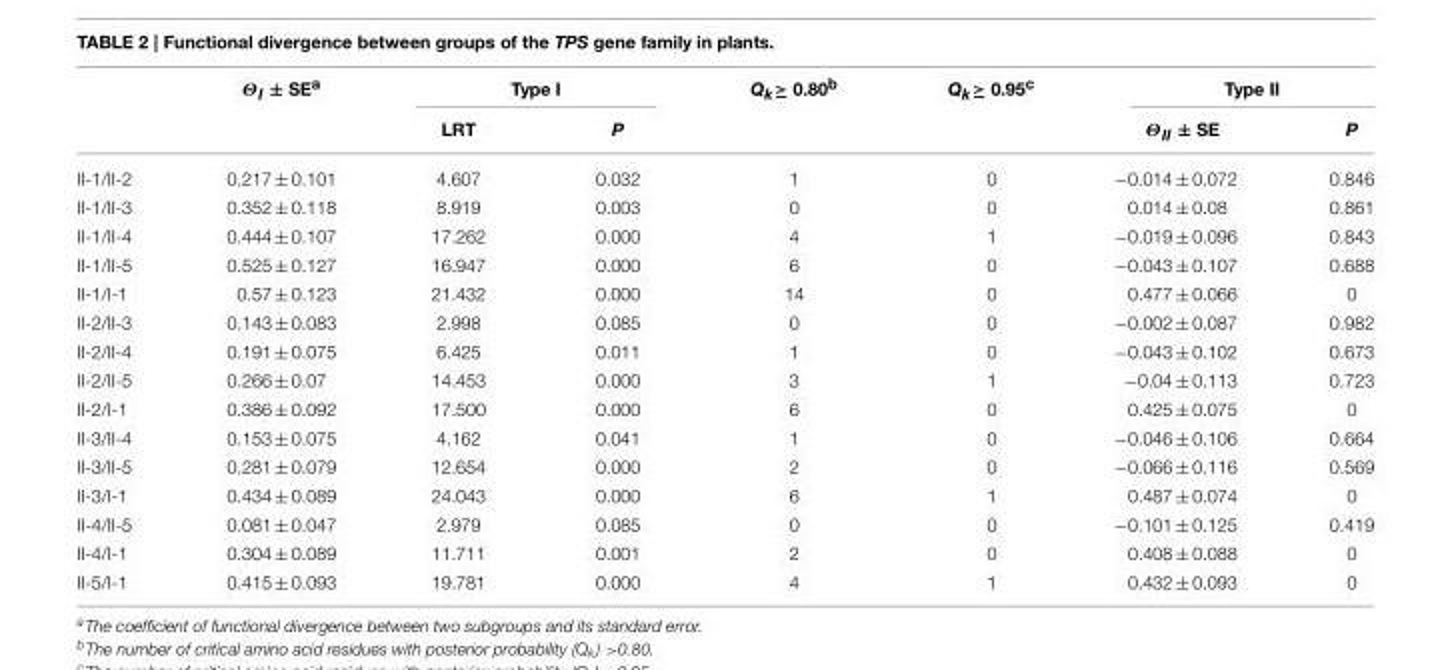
<table><thead><tr><td rowspan="2"></td><td rowspan="2">Θ<sub>I</sub> ± SE<sup>a</sup></td><td colspan="2">Type I</td><td rowspan="2">Q<sub>k</sub>≥ 0.80<sup>b</sup></td><td rowspan="2">Q<sub>k</sub>≥ 0.95<sup>c</sup></td><td colspan="2">Type II</td></tr><tr><td>LRT</td><td>P</td><td>Θ<sub>II</sub> ± SE</td><td>P</td></tr></thead><tbody><tr><td>II-1/II-2</td><td>0.217 ± 0.101</td><td>4.607</td><td>0.032</td><td>1</td><td>0</td><td>−0.014 ± 0.072</td><td>0.846</td></tr><tr><td>II-1/II-3</td><td>0.352 ± 0.118</td><td>8.919</td><td>0.003</td><td>0</td><td>0</td><td>0.014 ± 0.08</td><td>0.861</td></tr><tr><td>II-1/II-4</td><td>0.444 ± 0.107</td><td>17.262</td><td>0.000</td><td>4</td><td>1</td><td>−0.019 ± 0.096</td><td>0.843</td></tr><tr><td>II-1/II-5</td><td>0.525 ± 0.127</td><td>16.947</td><td>0.000</td><td>6</td><td>0</td><td>−0.043 ± 0.107</td><td>0.688</td></tr><tr><td>II-1/I-1</td><td>0.57 ± 0.123</td><td>21.432</td><td>0.000</td><td>14</td><td>0</td><td>0.477 ± 0.066</td><td>0</td></tr><tr><td>II-2/II-3</td><td>0.143 ± 0.083</td><td>2.998</td><td>0.085</td><td>0</td><td>0</td><td>−0.002 ± 0.087</td><td>0.982</td></tr><tr><td>II-2/II-4</td><td>0.191 ± 0.075</td><td>6.425</td><td>0.011</td><td>1</td><td>0</td><td>−0.043 ± 0.102</td><td>0.673</td></tr><tr><td>II-2/II-5</td><td>0.266 ± 0.07</td><td>14.453</td><td>0.000</td><td>3</td><td>1</td><td>−0.04 ± 0.113</td><td>0.723</td></tr><tr><td>II-2/I-1</td><td>0.386 ± 0.092</td><td>17.500</td><td>0.000</td><td>6</td><td>0</td><td>0.425 ± 0.075</td><td>0</td></tr><tr><td>II-3/II-4</td><td>0.153 ± 0.075</td><td>4.162</td><td>0.041</td><td>1</td><td>0</td><td>−0.046 ± 0.106</td><td>0.664</td></tr><tr><td>II-3/II-5</td><td>0.281 ± 0.079</td><td>12.654</td><td>0.000</td><td>2</td><td>0</td><td>−0.066 ± 0.116</td><td>0.569</td></tr><tr><td>II-3/I-1</td><td>0.434 ± 0.089</td><td>24.043</td><td>0.000</td><td>6</td><td>1</td><td>0.487 ± 0.074</td><td>0</td></tr><tr><td>II-4/II-5</td><td>0.081 ± 0.047</td><td>2.979</td><td>0.085</td><td>0</td><td>0</td><td>−0.101 ± 0.125</td><td>0.419</td></tr><tr><td>II-4/I-1</td><td>0.304 ± 0.089</td><td>11.711</td><td>0.001</td><td>2</td><td>0</td><td>0.408 ± 0.088</td><td>0</td></tr><tr><td>II-5/I-1</td><td>0.415 ± 0.093</td><td>19.781</td><td>0.000</td><td>4</td><td>1</td><td>0.432 ± 0.093</td><td>0</td></tr></tbody></table>